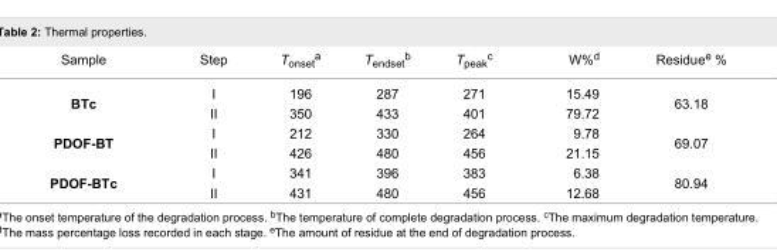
<table><tbody><tr><td>Sample</td><td>Step</td><td>T<sub>onset</sub><sup>a</sup></td><td>T<sub>endset</sub><sup>b</sup></td><td>T<sub>peak</sub><sup>c</sup></td><td>W%<sup>d</sup></td><td>Residue<sup>e</sup> %</td></tr><tr><td rowspan="2">BTc</td><td>I</td><td>196</td><td>287</td><td>271</td><td>15.49</td><td rowspan="2">63.18</td></tr><tr><td>II</td><td>350</td><td>433</td><td>401</td><td>79.72</td></tr><tr><td rowspan="2">PDOF-BT</td><td>I</td><td>212</td><td>330</td><td>264</td><td>9.78</td><td rowspan="2">69.07</td></tr><tr><td>II</td><td>426</td><td>480</td><td>456</td><td>21.15</td></tr><tr><td rowspan="2">PDOF-BTc</td><td>I</td><td>341</td><td>396</td><td>383</td><td>6.38</td><td rowspan="2">80.94</td></tr><tr><td>II</td><td>431</td><td>480</td><td>456</td><td>12.68</td></tr></tbody></table>